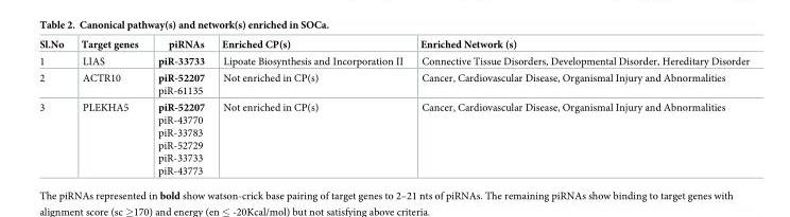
<table><thead><tr><td>Sl.No</td><td>Target genes</td><td>piRNAs</td><td>Enriched CP(s)</td><td>Enriched Network (s)</td></tr></thead><tbody><tr><td>1</td><td>LIAS</td><td>piR-33733</td><td>Lipoate Biosynthesis and Incorporation II</td><td>Connective Tissue Disorders, Developmental Disorder, Hereditary Disorder</td></tr><tr><td>2</td><td>ACTR10</td><td>piR-52207 piR-61135</td><td>Not enriched in CP(s)</td><td>Cancer, Cardiovascular Disease, Organismal Injury and Abnormalities</td></tr><tr><td>3</td><td>PLEKHA5</td><td>piR-52207 piR-43770 piR-33783 piR-52729 piR-33733 piR-43773</td><td>Not enriched in CP(s)</td><td>Cancer, Cardiovascular Disease, Organismal Injury and Abnormalities</td></tr></tbody></table>